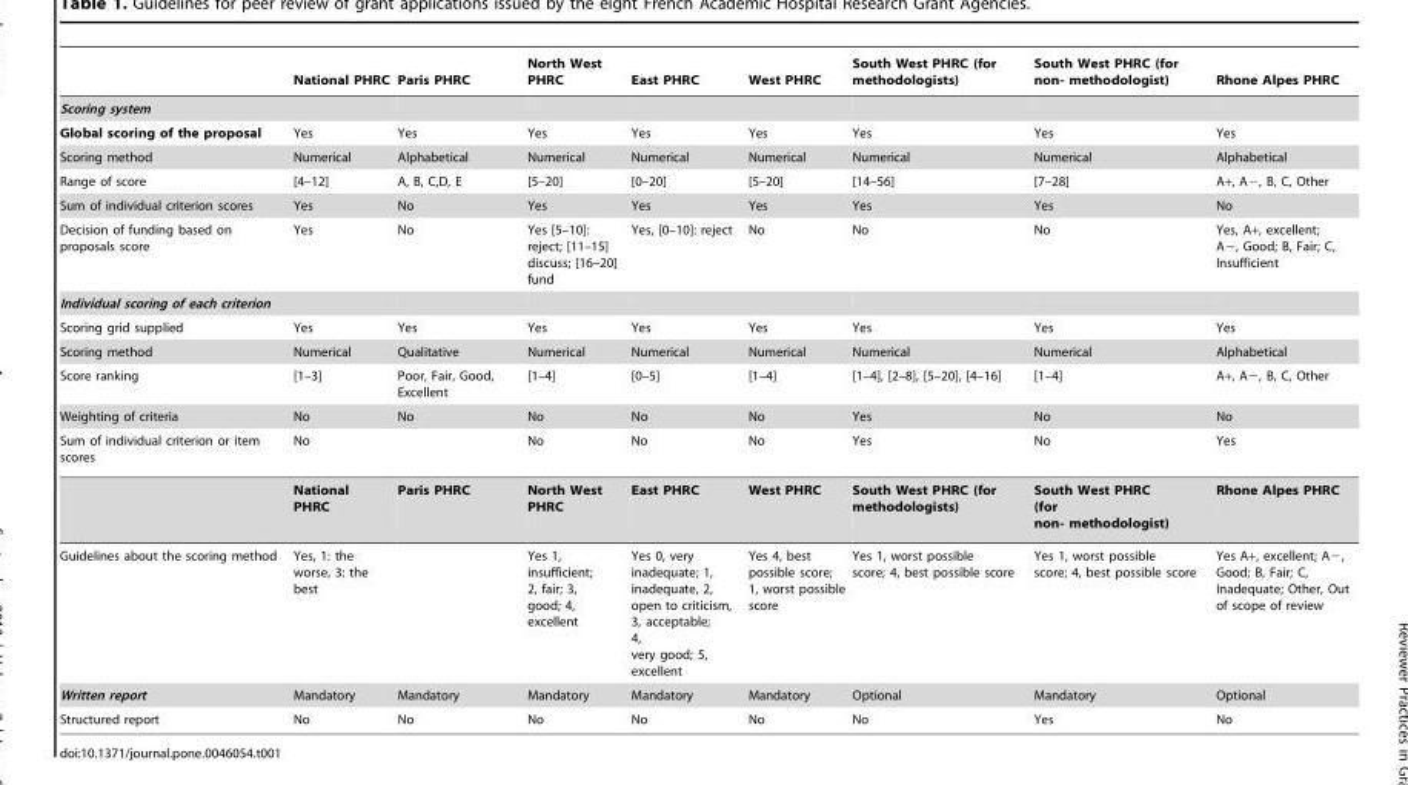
<table><thead><tr><td></td><td>National PHRC</td><td>Paris PHRC</td><td>North West PHRC</td><td>East PHRC</td><td>West PHRC</td><td>South West PHRC (for methodologists)</td><td>South West PHRC (for non- methodologist)</td><td>Rhone Alpes PHRC</td></tr></thead><tbody><tr><td colspan="9">Scoring system</td></tr><tr><td>Global scoring of the proposal</td><td>Yes</td><td>Yes</td><td>Yes</td><td>Yes</td><td>Yes</td><td>Yes</td><td>Yes</td><td>Yes</td></tr><tr><td>Scoring method</td><td>Numerical</td><td>Alphabetical</td><td>Numerical</td><td>Numerical</td><td>Numerical</td><td>Numerical</td><td>Numerical</td><td>Alphabetical</td></tr><tr><td>Range of score</td><td>[4–12]</td><td>A, B, C,D, E</td><td>[5–20]</td><td>[0–20]</td><td>[5–20]</td><td>[14–56]</td><td>[7–28]</td><td>A+, A−, B, C, Other</td></tr><tr><td>Sum of individual criterion scores</td><td>Yes</td><td>No</td><td>Yes</td><td>Yes</td><td>Yes</td><td>Yes</td><td>Yes</td><td>No</td></tr><tr><td>Decision of funding based on proposals score</td><td>Yes</td><td>No</td><td>Yes [5–10]: reject; [11–15] discuss; [16–20] fund</td><td>Yes, [0–10]: reject</td><td>No</td><td>No</td><td>No</td><td>Yes, A+, excellent; A−, Good; B, Fair; C, Insufficient</td></tr><tr><td colspan="9">Individual scoring of each criterion</td></tr><tr><td>Scoring grid supplied</td><td>Yes</td><td>Yes</td><td>Yes</td><td>Yes</td><td>Yes</td><td>Yes</td><td>Yes</td><td>Yes</td></tr><tr><td>Scoring method</td><td>Numerical</td><td>Qualitative</td><td>Numerical</td><td>Numerical</td><td>Numerical</td><td>Numerical</td><td>Numerical</td><td>Alphabetical</td></tr><tr><td>Score ranking</td><td>[1–3]</td><td>Poor, Fair, Good, Excellent</td><td>[1–4]</td><td>[0–5]</td><td>[1–4]</td><td>[1–4], [2–8], [5–20], [4–16]</td><td>[1–4]</td><td>A+, A−, B, C, Other</td></tr><tr><td>Weighting of criteria</td><td>No</td><td>No</td><td>No</td><td>No</td><td>No</td><td>Yes</td><td>No</td><td>No</td></tr><tr><td rowspan="2">Sum of individual criterion or item scores</td><td>No</td><td></td><td>No</td><td>No</td><td>No</td><td>Yes</td><td>No</td><td>Yes</td></tr><tr><td>National PHRC</td><td>Paris PHRC</td><td>North West PHRC</td><td>East PHRC</td><td>West PHRC</td><td>South West PHRC (for methodologists)</td><td>South West PHRC (for non- methodologist)</td><td>Rhone Alpes PHRC</td></tr><tr><td>Guidelines about the scoring method</td><td>Yes, 1: the worse, 3: the best</td><td></td><td>Yes 1, insufficient; 2, fair; 3, good; 4, excellent</td><td>Yes 0, very inadequate; 1, inadequate, 2, open to criticism, 3, acceptable; 4, very good; 5, excellent</td><td>Yes 4, best possible score; 1, worst possible score</td><td>Yes 1, worst possible score; 4, best possible score</td><td>Yes 1, worst possible score; 4, best possible score</td><td>Yes A+, excellent; A−, Good; B, Fair; C, Inadequate; Other, Out of scope of review</td></tr><tr><td>Written report</td><td>Mandatory</td><td>Mandatory</td><td>Mandatory</td><td>Mandatory</td><td>Mandatory</td><td>Optional</td><td>Mandatory</td><td>Optional</td></tr><tr><td>Structured report</td><td>No</td><td>No</td><td>No</td><td>No</td><td>No</td><td>No</td><td>Yes</td><td>No</td></tr></tbody></table>